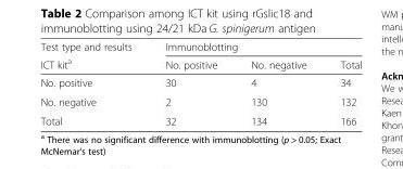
<table><thead><tr><td rowspan="2">Test type and results ICT kit<sup>a</sup></td><td colspan="3">Immunoblotting</td></tr><tr><td>No. positive</td><td>No. negative</td><td>Total</td></tr></thead><tbody><tr><td>No. positive</td><td>30</td><td>4</td><td>34</td></tr><tr><td>No. negative</td><td>2</td><td>130</td><td>132</td></tr><tr><td>Total</td><td>32</td><td>134</td><td>166</td></tr></tbody></table>